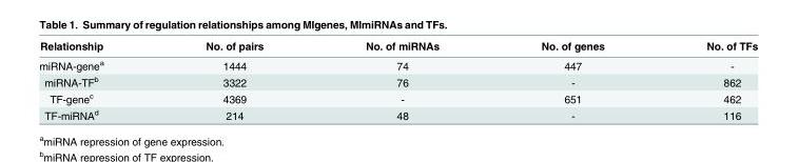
<table><thead><tr><td>Relationship</td><td>No. of pairs</td><td>No. of miRNAs</td><td>No. of genes</td><td>No. of TFs</td></tr></thead><tbody><tr><td>miRNA-gene<sup>a</sup></td><td>1444</td><td>74</td><td>447</td><td>-</td></tr><tr><td>miRNA-TF<sup>b</sup></td><td>3322</td><td>76</td><td>-</td><td>862</td></tr><tr><td>TF-gene<sup>c</sup></td><td>4369</td><td>-</td><td>651</td><td>462</td></tr><tr><td>TF-miRNA<sup>d</sup></td><td>214</td><td>48</td><td>-</td><td>116</td></tr></tbody></table>